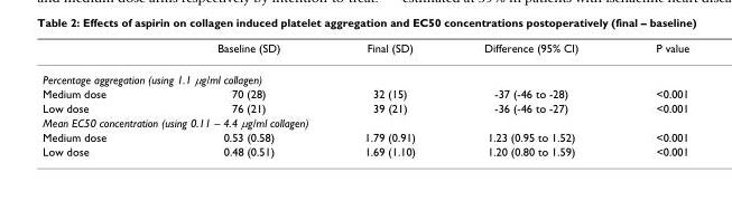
<table><thead><tr><td></td><td>Baseline (SD)</td><td>Final (SD)</td><td>Difference (95% CI)</td><td>P value</td></tr></thead><tbody><tr><td colspan="5">Percentage aggregation (using 1.1 µg/ml collagen)</td></tr><tr><td>Medium dose</td><td>70 (28)</td><td>32 (15)</td><td>-37 (-46 to -28)</td><td>&lt;0.001</td></tr><tr><td>Low dose</td><td>76 (21)</td><td>39 (21)</td><td>-36 (-46 to -27)</td><td>&lt;0.001</td></tr><tr><td colspan="5">Mean EC50 concentration (using 0.11 – 4.4 µg/ml collagen)</td></tr><tr><td>Medium dose</td><td>0.53 (0.58)</td><td>1.79 (0.91)</td><td>1.23 (0.95 to 1.52)</td><td>&lt;0.001</td></tr><tr><td>Low dose</td><td>0.48 (0.51)</td><td>1.69 (1.10)</td><td>1.20 (0.80 to 1.59)</td><td>&lt;0.001</td></tr></tbody></table>